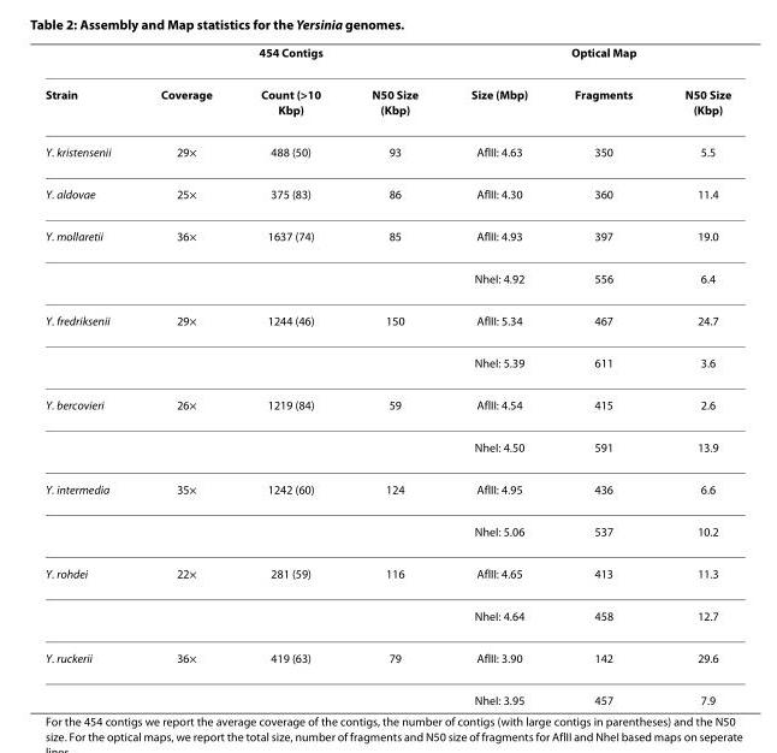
<table><thead><tr><td rowspan="2">Strain</td><td colspan="3">454 Contigs</td><td colspan="3">Optical Map</td></tr><tr><td>Coverage</td><td>Count (&gt;10 Kbp)</td><td>N50 Size (Kbp)</td><td>Size (Mbp)</td><td>Fragments</td><td>N50 Size (Kbp)</td></tr></thead><tbody><tr><td>Y. kristensenii</td><td>29×</td><td>488 (50)</td><td>93</td><td>AflII: 4.63</td><td>350</td><td>5.5</td></tr><tr><td>Y. aldovae</td><td>25×</td><td>375 (83)</td><td>86</td><td>AflII: 4.30</td><td>360</td><td>11.4</td></tr><tr><td rowspan="2">Y. mollaretii</td><td>36×</td><td>1637 (74)</td><td>85</td><td>AflII: 4.93</td><td>397</td><td>19.0</td></tr><tr><td></td><td></td><td></td><td>NheI: 4.92</td><td>556</td><td>6.4</td></tr><tr><td rowspan="2">Y. fredriksenii</td><td>29×</td><td>1244 (46)</td><td>150</td><td>AflII: 5.34</td><td>467</td><td>24.7</td></tr><tr><td></td><td></td><td></td><td>NheI: 5.39</td><td>611</td><td>3.6</td></tr><tr><td rowspan="2">Y. bercovieri</td><td>26×</td><td>1219 (84)</td><td>59</td><td>AflII: 4.54</td><td>415</td><td>2.6</td></tr><tr><td></td><td></td><td></td><td>NheI: 4.50</td><td>591</td><td>13.9</td></tr><tr><td rowspan="2">Y. intermedia</td><td>35×</td><td>1242 (60)</td><td>124</td><td>AflII: 4.95</td><td>436</td><td>6.6</td></tr><tr><td></td><td></td><td></td><td>NheI: 5.06</td><td>537</td><td>10.2</td></tr><tr><td rowspan="2">Y. rohdei</td><td>22×</td><td>281 (59)</td><td>116</td><td>AflII: 4.65</td><td>413</td><td>11.3</td></tr><tr><td></td><td></td><td></td><td>NheI: 4.64</td><td>458</td><td>12.7</td></tr><tr><td rowspan="2">Y. ruckerii</td><td>36×</td><td>419 (63)</td><td>79</td><td>AflII: 3.90</td><td>142</td><td>29.6</td></tr><tr><td></td><td></td><td></td><td>NheI: 3.95</td><td>457</td><td>7.9</td></tr></tbody></table>